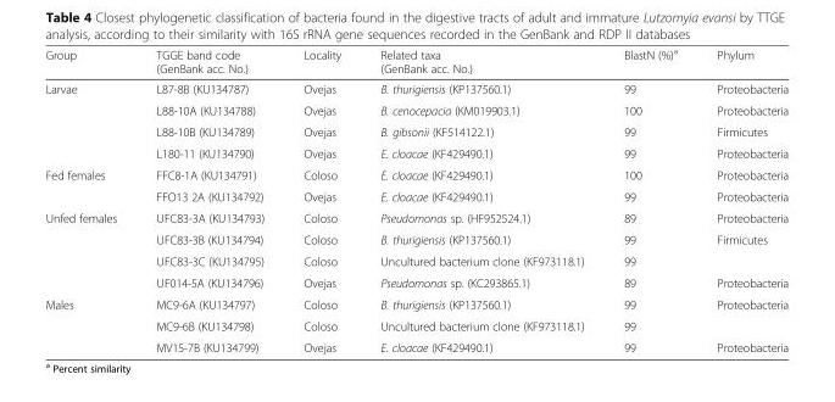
<table><thead><tr><td>Group</td><td>TGGE band code (GenBank acc. No.)</td><td>Locality</td><td>Related taxa (GenBank acc. No.)</td><td>BlastN (%)<sup>a</sup></td><td>Phylum</td></tr></thead><tbody><tr><td rowspan="4">Larvae</td><td>L87-8B (KU134787)</td><td>Ovejas</td><td>B. thurigiensis (KP137560.1)</td><td>99</td><td>Proteobacteria</td></tr><tr><td>L88-10A (KU134788)</td><td>Ovejas</td><td>B. cenocepacia (KM019903.1)</td><td>100</td><td>Proteobacteria</td></tr><tr><td>L88-10B (KU134789)</td><td>Ovejas</td><td>B. gibsonii (KF514122.1)</td><td>99</td><td>Firmicutes</td></tr><tr><td>L180-11 (KU134790)</td><td>Ovejas</td><td>E. cloacae (KF429490.1)</td><td>99</td><td>Proteobacteria</td></tr><tr><td rowspan="2">Fed females</td><td>FFC8-1A (KU134791)</td><td>Coloso</td><td>E. cloacae (KF429490.1)</td><td>100</td><td>Proteobacteria</td></tr><tr><td>FFO13 2A (KU134792)</td><td>Ovejas</td><td>E. cloacae (KF429490.1)</td><td>99</td><td>Proteobacteria</td></tr><tr><td rowspan="4">Unfed females</td><td>UFC83-3A (KU134793)</td><td>Coloso</td><td>Pseudomonas sp. (HF952524.1)</td><td>89</td><td>Proteobacteria</td></tr><tr><td>UFC83-3B (KU134794)</td><td>Coloso</td><td>B. thurigiensis (KP137560.1)</td><td>99</td><td>Firmicutes</td></tr><tr><td>UFC83-3C (KU134795)</td><td>Coloso</td><td>Uncultured bacterium clone (KF973118.1)</td><td>99</td><td></td></tr><tr><td>UF014-5A (KU134796)</td><td>Ovejas</td><td>Pseudomonas sp. (KC293865.1)</td><td>89</td><td>Proteobacteria</td></tr><tr><td rowspan="3">Males</td><td>MC9-6A (KU134797)</td><td>Coloso</td><td>B. thurigiensis (KP137560.1)</td><td>99</td><td>Proteobacteria</td></tr><tr><td>MC9-6B (KU134798)</td><td>Coloso</td><td>Uncultured bacterium clone (KF973118.1)</td><td>99</td><td></td></tr><tr><td>MV15-7B (KU134799)</td><td>Ovejas</td><td>E. cloacae (KF429490.1)</td><td>99</td><td>Proteobacteria</td></tr></tbody></table>